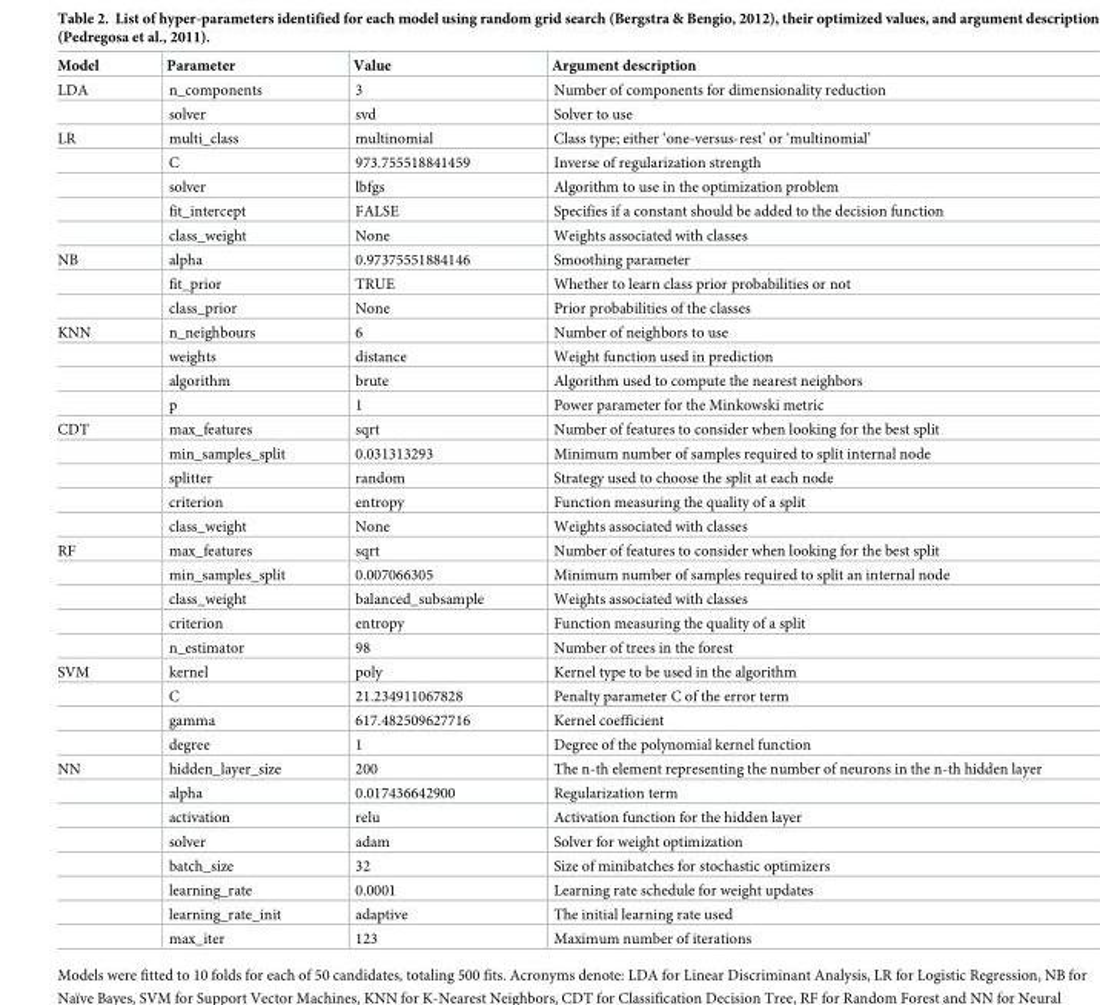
<table><thead><tr><td>Model</td><td>Parameter</td><td>Value</td><td>Argument description</td></tr></thead><tbody><tr><td rowspan="2">LDA</td><td>n_components</td><td>3</td><td>Number of components for dimensionality reduction</td></tr><tr><td>solver</td><td>svd</td><td>Solver to use</td></tr><tr><td rowspan="5">LR</td><td>multi_class</td><td>multinomial</td><td>Class type; either ‘one-versus-rest’ or ‘multinomial’</td></tr><tr><td>C</td><td>973.755518841459</td><td>Inverse of regularization strength</td></tr><tr><td>solver</td><td>lbfgs</td><td>Algorithm to use in the optimization problem</td></tr><tr><td>fit_intercept</td><td>FALSE</td><td>Specifies if a constant should be added to the decision function</td></tr><tr><td>class_weight</td><td>None</td><td>Weights associated with classes</td></tr><tr><td rowspan="3">NB</td><td>alpha</td><td>0.97375551884146</td><td>Smoothing parameter</td></tr><tr><td>fit_prior</td><td>TRUE</td><td>Whether to learn class prior probabilities or not</td></tr><tr><td>class_prior</td><td>None</td><td>Prior probabilities of the classes</td></tr><tr><td rowspan="4">KNN</td><td>n_neighbours</td><td>6</td><td>Number of neighbors to use</td></tr><tr><td>weights</td><td>distance</td><td>Weight function used in prediction</td></tr><tr><td>algorithm</td><td>brute</td><td>Algorithm used to compute the nearest neighbors</td></tr><tr><td>p</td><td>1</td><td>Power parameter for the Minkowski metric</td></tr><tr><td rowspan="5">CDT</td><td>max_features</td><td>sqrt</td><td>Number of features to consider when looking for the best split</td></tr><tr><td>min_samples_split</td><td>0.031313293</td><td>Minimum number of samples required to split internal node</td></tr><tr><td>splitter</td><td>random</td><td>Strategy used to choose the split at each node</td></tr><tr><td>criterion</td><td>entropy</td><td>Function measuring the quality of a split</td></tr><tr><td>class_weight</td><td>None</td><td>Weights associated with classes</td></tr><tr><td rowspan="5">RF</td><td>max_features</td><td>sqrt</td><td>Number of features to consider when looking for the best split</td></tr><tr><td>min_samples_split</td><td>0.007066305</td><td>Minimum number of samples required to split an internal node</td></tr><tr><td>class_weight</td><td>balanced_subsample</td><td>Weights associated with classes</td></tr><tr><td>criterion</td><td>entropy</td><td>Function measuring the quality of a split</td></tr><tr><td>n_estimator</td><td>98</td><td>Number of trees in the forest</td></tr><tr><td rowspan="4">SVM</td><td>kernel</td><td>poly</td><td>Kernel type to be used in the algorithm</td></tr><tr><td>C</td><td>21.234911067828</td><td>Penalty parameter C of the error term</td></tr><tr><td>gamma</td><td>617.482509627716</td><td>Kernel coefficient</td></tr><tr><td>degree</td><td>1</td><td>Degree of the polynomial kernel function</td></tr><tr><td rowspan="8">NN</td><td>hidden_layer_size</td><td>200</td><td>The n-th element representing the number of neurons in the n-th hidden layer</td></tr><tr><td>alpha</td><td>0.017436642900</td><td>Regularization term</td></tr><tr><td>activation</td><td>relu</td><td>Activation function for the hidden layer</td></tr><tr><td>solver</td><td>adam</td><td>Solver for weight optimization</td></tr><tr><td>batch_size</td><td>32</td><td>Size of minibatches for stochastic optimizers</td></tr><tr><td>learning_rate</td><td>0.0001</td><td>Learning rate schedule for weight updates</td></tr><tr><td>learning_rate_init</td><td>adaptive</td><td>The initial learning rate used</td></tr><tr><td>max_iter</td><td>123</td><td>Maximum number of iterations</td></tr></tbody></table>